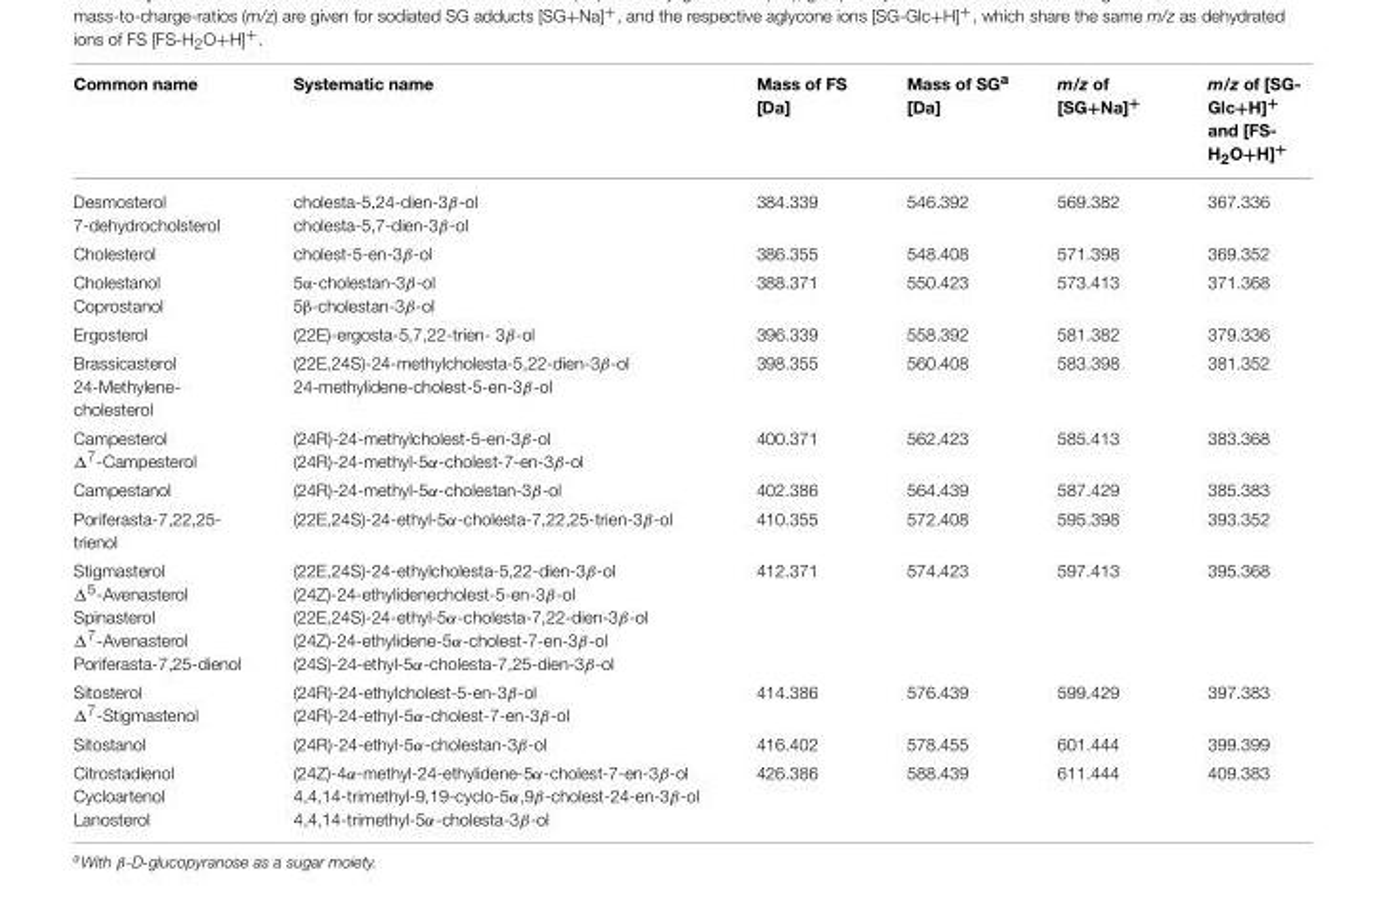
<table><thead><tr><td>Common name</td><td>Systematic name</td><td>Mass of FS [Da]</td><td>Mass of SG<sup>a</sup> [Da]</td><td>m/z of [SG+Na]<sup>+</sup></td><td>m/z of [SG- Glc+H]<sup>+</sup> and [FS- H<sub>2</sub>O+H]<sup>+</sup></td></tr></thead><tbody><tr><td>Desmosterol 7-dehydrocholsterol</td><td>cholesta-5,24-dien-3β-ol cholesta-5,7-dien-3β-ol</td><td>384.339</td><td>546.392</td><td>569.382</td><td>367.336</td></tr><tr><td>Cholesterol</td><td>cholest-5-en-3β-ol</td><td>386.355</td><td>548.408</td><td>571.398</td><td>369.352</td></tr><tr><td>Cholestanol Coprostanol</td><td>5α-cholestan-3β-ol 5β-cholestan-3β-ol</td><td>388.371</td><td>550.423</td><td>573.413</td><td>371.368</td></tr><tr><td>Ergosterol</td><td>(22E)-ergosta-5,7,22-trien- 3β-ol</td><td>396.339</td><td>558.392</td><td>581.382</td><td>379.336</td></tr><tr><td>Brassicasterol 24-Methylene- cholesterol</td><td>(22E,24S)-24-methylcholesta-5,22-dien-3β-ol 24-methylidene-cholest-5-en-3β-ol</td><td>398.355</td><td>560.408</td><td>583.398</td><td>381.352</td></tr><tr><td>Campesterol Δ<sup>7</sup>-Campesterol</td><td>(24R)-24-methylcholest-5-en-3β-ol (24R)-24-methyl-5α-cholest-7-en-3β-ol</td><td>400.371</td><td>562.423</td><td>585.413</td><td>383.368</td></tr><tr><td>Campestanol</td><td>(24R)-24-methyl-5α-cholestan-3β-ol</td><td>402.386</td><td>564.439</td><td>587.429</td><td>385.383</td></tr><tr><td>Poriferasta-7,22,25- trienol</td><td>(22E,24S)-24-ethyl-5α-cholesta-7,22,25-trien-3β-ol</td><td>410.355</td><td>572.408</td><td>595.398</td><td>393.352</td></tr><tr><td>Stigmasterol Δ<sup>5</sup>-Avenasterol Spinasterol Δ<sup>7</sup>-Avenasterol Poriferasta-7,25-dienol</td><td>(22E,24S)-24-ethylcholesta-5,22-dien-3β-ol (24Z)-24-ethylidenecholest-5-en-3β-ol (22E,24S)-24-ethyl-5α-cholesta-7,22-dien-3β-ol (24Z)-24-ethylidene-5α-cholest-7-en-3β-ol (24S)-24-ethyl-5α-cholesta-7,25-dien-3β-ol</td><td>412.371</td><td>574.423</td><td>597.413</td><td>395.368</td></tr><tr><td>Sitosterol Δ<sup>7</sup>-Stigmastenol</td><td>(24R)-24-ethylcholest-5-en-3β-ol (24R)-24-ethyl-5α-cholest-7-en-3β-ol</td><td>414.386</td><td>576.439</td><td>599.429</td><td>397.383</td></tr><tr><td>Sitostanol</td><td>(24R)-24-ethyl-5α-cholestan-3β-ol</td><td>416.402</td><td>578.455</td><td>601.444</td><td>399.399</td></tr><tr><td>Citrostadienol Cycloartenol Lanosterol</td><td>(24Z)-4α-methyl-24-ethylidene-5α-cholest-7-en-3β-ol 4,4,14-trimethyl-9,19-cyclo-5α,9β-cholest-24-en-3β-ol 4,4,14-trimethyl-5α-cholesta-3β-ol</td><td>426.386</td><td>588.439</td><td>611.444</td><td>409.383</td></tr></tbody></table>